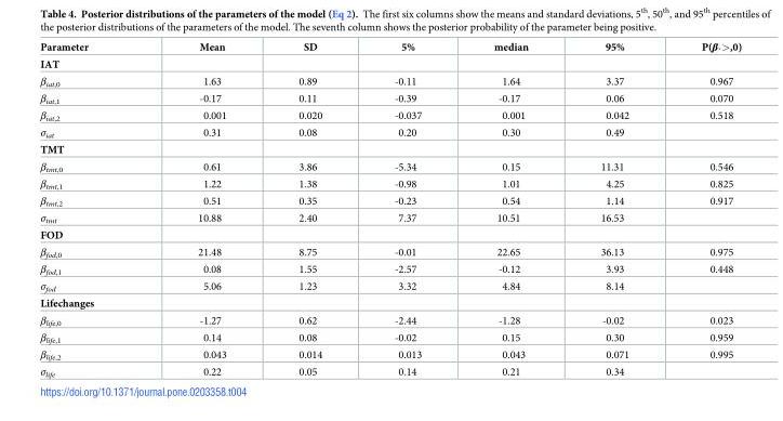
<table><thead><tr><td>Parameter</td><td>Mean</td><td>SD</td><td>5%</td><td>median</td><td>95%</td><td>P(β<sub>*</sub>&gt;,0)</td></tr></thead><tbody><tr><td colspan="7">IAT</td></tr><tr><td>β<sub>iat,0</sub></td><td>1.63</td><td>0.89</td><td>-0.11</td><td>1.64</td><td>3.37</td><td>0.967</td></tr><tr><td>β<sub>iat,1</sub></td><td>-0.17</td><td>0.11</td><td>-0.39</td><td>-0.17</td><td>0.06</td><td>0.070</td></tr><tr><td>β<sub>iat,2</sub></td><td>0.001</td><td>0.020</td><td>-0.037</td><td>0.001</td><td>0.042</td><td>0.518</td></tr><tr><td>σ<sub>iat</sub></td><td>0.31</td><td>0.08</td><td>0.20</td><td>0.30</td><td>0.49</td><td></td></tr><tr><td colspan="7">TMT</td></tr><tr><td>β<sub>tmt,0</sub></td><td>0.61</td><td>3.86</td><td>-5.34</td><td>0.15</td><td>11.31</td><td>0.546</td></tr><tr><td>β<sub>tmt,1</sub></td><td>1.22</td><td>1.38</td><td>-0.98</td><td>1.01</td><td>4.25</td><td>0.825</td></tr><tr><td>β<sub>tmt,2</sub></td><td>0.51</td><td>0.35</td><td>-0.23</td><td>0.54</td><td>1.14</td><td>0.917</td></tr><tr><td>σ<sub>tmt</sub></td><td>10.88</td><td>2.40</td><td>7.37</td><td>10.51</td><td>16.53</td><td></td></tr><tr><td colspan="7">FOD</td></tr><tr><td>β<sub>fod,0</sub></td><td>21.48</td><td>8.75</td><td>-0.01</td><td>22.65</td><td>36.13</td><td>0.975</td></tr><tr><td>β<sub>fod,1</sub></td><td>0.08</td><td>1.55</td><td>-2.57</td><td>-0.12</td><td>3.93</td><td>0.448</td></tr><tr><td>σ<sub>fod</sub></td><td>5.06</td><td>1.23</td><td>3.32</td><td>4.84</td><td>8.14</td><td></td></tr><tr><td colspan="7">Lifechanges</td></tr><tr><td>β<sub>life,0</sub></td><td>-1.27</td><td>0.62</td><td>-2.44</td><td>-1.28</td><td>-0.02</td><td>0.023</td></tr><tr><td>β<sub>life,1</sub></td><td>0.14</td><td>0.08</td><td>-0.02</td><td>0.15</td><td>0.30</td><td>0.959</td></tr><tr><td>β<sub>life,2</sub></td><td>0.043</td><td>0.014</td><td>0.013</td><td>0.043</td><td>0.071</td><td>0.995</td></tr><tr><td>σ<sub>life</sub></td><td>0.22</td><td>0.05</td><td>0.14</td><td>0.21</td><td>0.34</td><td></td></tr></tbody></table>